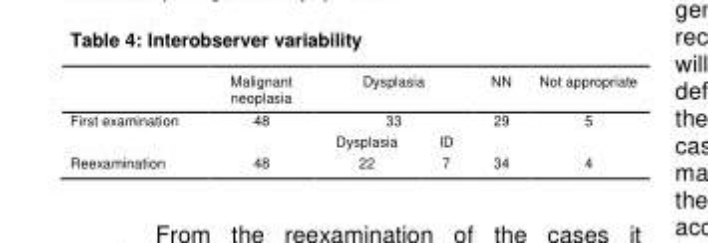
<table><thead><tr><td rowspan="3">First examination</td><td rowspan="3">Malignant neoplasia 48</td><td rowspan="2" colspan="2">Dysplasia 33</td><td rowspan="3">NN 29</td><td rowspan="3">Not appropriate 5</td></tr><tr></tr><tr><td>Dysplasia</td><td>ID</td></tr></thead><tbody><tr><td>Reexamination</td><td>48</td><td>22</td><td>7</td><td>34</td><td>4</td></tr></tbody></table>